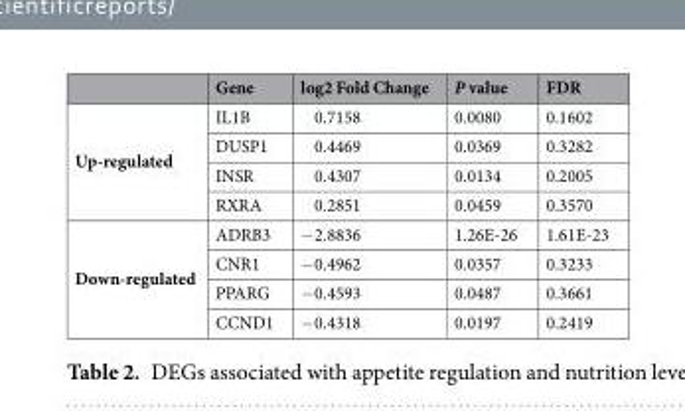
<table><thead><tr><td></td><td>Gene</td><td>log2 Fold Change</td><td>P value</td><td>FDR</td></tr></thead><tbody><tr><td rowspan="4">Up-regulated</td><td>IL1B</td><td>0.7158</td><td>0.0080</td><td>0.1602</td></tr><tr><td>DUSP1</td><td>0.4469</td><td>0.0369</td><td>0.3282</td></tr><tr><td>INSR</td><td>0.4307</td><td>0.0134</td><td>0.2005</td></tr><tr><td>RXRA</td><td>0.2851</td><td>0.0459</td><td>0.3570</td></tr><tr><td rowspan="4">Down-regulated</td><td>ADRB3</td><td>−2.8836</td><td>1.26E-26</td><td>1.61E-23</td></tr><tr><td>CNR1</td><td>−0.4962</td><td>0.0357</td><td>0.3233</td></tr><tr><td>PPARG</td><td>−0.4593</td><td>0.0487</td><td>0.3661</td></tr><tr><td>CCND1</td><td>−0.4318</td><td>0.0197</td><td>0.2419</td></tr></tbody></table>